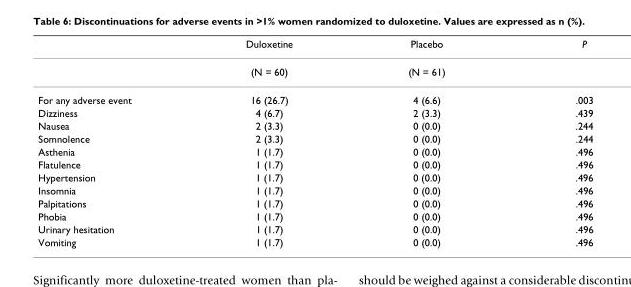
<table><thead><tr><td></td><td>Duloxetine</td><td>Placebo</td><td>P</td></tr></thead><tbody><tr><td></td><td>(N = 60)</td><td>(N = 61)</td><td></td></tr><tr><td>For any adverse event</td><td>16 (26.7)</td><td>4 (6.6)</td><td>.003</td></tr><tr><td>Dizziness</td><td>4 (6.7)</td><td>2 (3.3)</td><td>.439</td></tr><tr><td>Nausea</td><td>2 (3.3)</td><td>0 (0.0)</td><td>.244</td></tr><tr><td>Somnolence</td><td>2 (3.3)</td><td>0 (0.0)</td><td>.244</td></tr><tr><td>Asthenia</td><td>1 (1.7)</td><td>0 (0.0)</td><td>.496</td></tr><tr><td>Flatulence</td><td>1 (1.7)</td><td>0 (0.0)</td><td>.496</td></tr><tr><td>Hypertension</td><td>1 (1.7)</td><td>0 (0.0)</td><td>.496</td></tr><tr><td>Insomnia</td><td>1 (1.7)</td><td>0 (0.0)</td><td>.496</td></tr><tr><td>Palpitations</td><td>1 (1.7)</td><td>0 (0.0)</td><td>.496</td></tr><tr><td>Phobia</td><td>1 (1.7)</td><td>0 (0.0)</td><td>.496</td></tr><tr><td>Urinary hesitation</td><td>1 (1.7)</td><td>0 (0.0)</td><td>.496</td></tr><tr><td>Vomiting</td><td>1 (1.7)</td><td>0 (0.0)</td><td>.496</td></tr></tbody></table>